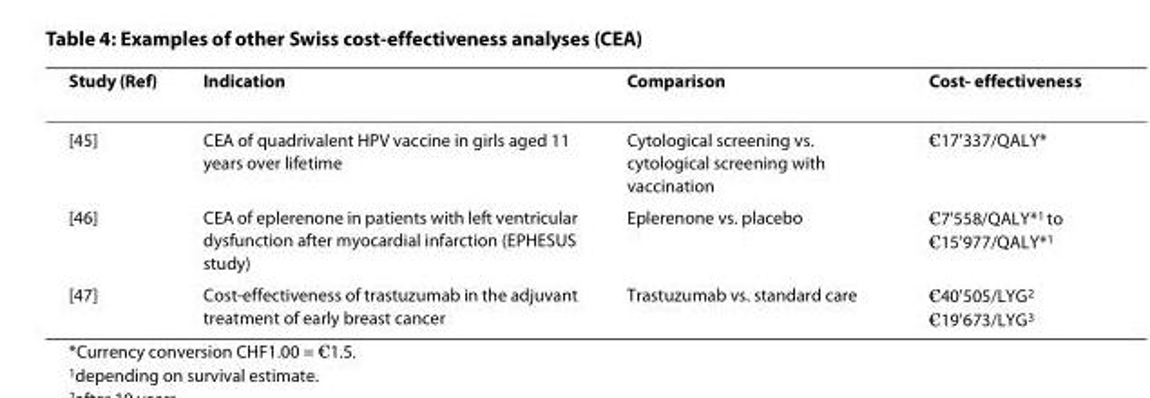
<table><thead><tr><td>Study (Ref)</td><td>Indication</td><td>Comparison</td><td>Cost- effectiveness</td></tr></thead><tbody><tr><td>[45]</td><td>CEA of quadrivalent HPV vaccine in girls aged 11 years over lifetime</td><td>Cytological screening vs. cytological screening with vaccination</td><td>€17&#x27;337/QALY*</td></tr><tr><td>[46]</td><td>CEA of eplerenone in patients with left ventricular dysfunction after myocardial infarction (EPHESUS study)</td><td>Eplerenone vs. placebo</td><td>€7&#x27;558/QALY*<sup>1</sup> to €15&#x27;977/QALY*<sup>1</sup></td></tr><tr><td>[47]</td><td>Cost-effectiveness of trastuzumab in the adjuvant treatment of early breast cancer</td><td>Trastuzumab vs. standard care</td><td>€40&#x27;505/LYG<sup>2</sup> €19&#x27;673/LYG<sup>3</sup></td></tr></tbody></table>